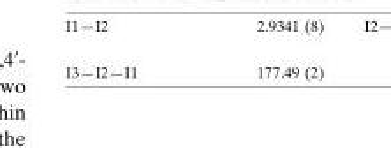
<table><tbody><tr><td>I3—I2—I1</td><td>177.49 (2)</td></tr></tbody></table>